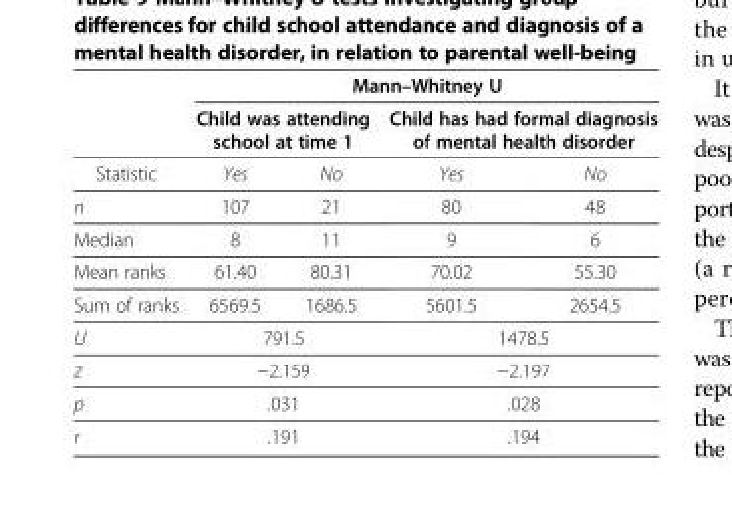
<table><thead><tr><td rowspan="3">Statistic</td><td colspan="4">Mann–Whitney U</td></tr><tr><td colspan="2">Child was attending school at time 1</td><td colspan="2">Child has had formal diagnosis of mental health disorder</td></tr><tr><td>Yes</td><td>No</td><td>Yes</td><td>No</td></tr></thead><tbody><tr><td>n</td><td>107</td><td>21</td><td>80</td><td>48</td></tr><tr><td>Median</td><td>8</td><td>11</td><td>9</td><td>6</td></tr><tr><td>Mean ranks</td><td>61.40</td><td>80.31</td><td>70.02</td><td>55.30</td></tr><tr><td>Sum of ranks</td><td>6569.5</td><td>1686.5</td><td>5601.5</td><td>2654.5</td></tr><tr><td>U</td><td colspan="2">791.5</td><td colspan="2">1478.5</td></tr><tr><td>z</td><td colspan="2">−2.159</td><td colspan="2">−2.197</td></tr><tr><td>p</td><td colspan="2">.031</td><td colspan="2">.028</td></tr><tr><td>r</td><td colspan="2">.191</td><td colspan="2">.194</td></tr></tbody></table>